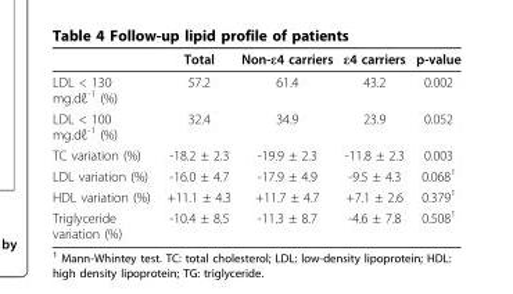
<table><thead><tr><td></td><td>Total</td><td>Non-ε4 carriers</td><td>ε4 carriers</td><td>p-value</td></tr></thead><tbody><tr><td>LDL &lt; 130 mg.dℓ<sup>-1</sup> (%)</td><td>57.2</td><td>61.4</td><td>43.2</td><td>0.002</td></tr><tr><td>LDL &lt; 100 mg.dℓ<sup>-1</sup> (%)</td><td>32.4</td><td>34.9</td><td>23.9</td><td>0.052</td></tr><tr><td>TC variation (%)</td><td>-18.2 ± 2.3</td><td>-19.9 ± 2.3</td><td>-11.8 ± 2.3</td><td>0.003</td></tr><tr><td>LDL variation (%)</td><td>-16.0 ± 4.7</td><td>-17.9 ± 4.9</td><td>-9.5 ± 4.3</td><td>0.068<sup>1</sup></td></tr><tr><td>HDL variation (%)</td><td>+11.1 ± 4.3</td><td>+11.7 ± 4.7</td><td>+7.1 ± 2.6</td><td>0.379<sup>1</sup></td></tr><tr><td>Triglyceride variation (%)</td><td>-10.4 ± 8.5</td><td>-11.3 ± 8.7</td><td>-4.6 ± 7.8</td><td>0.508<sup>1</sup></td></tr></tbody></table>